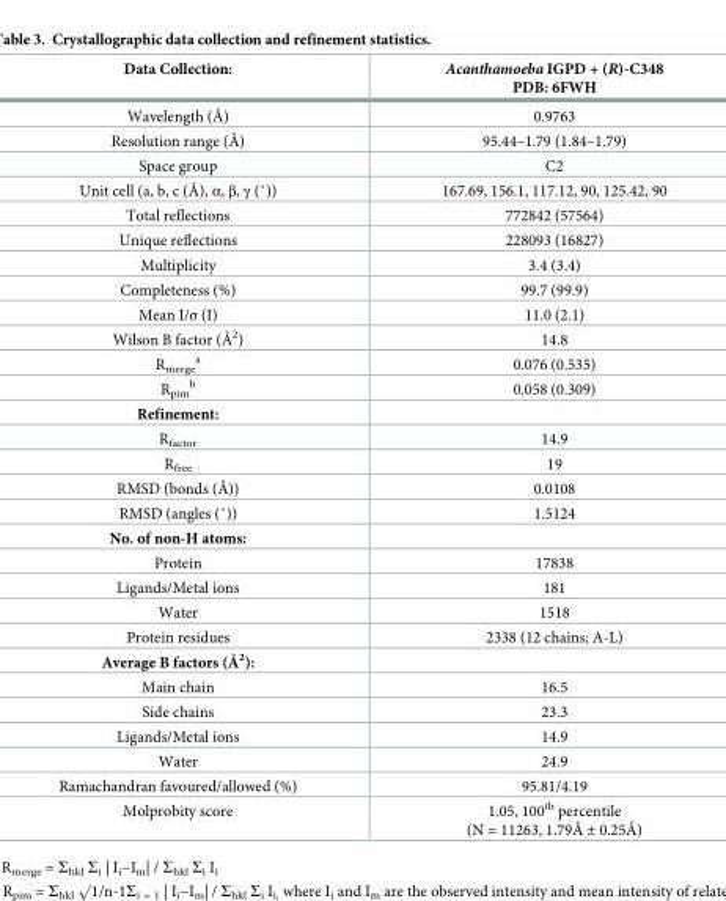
<table><thead><tr><td>Data Collection:</td><td>Acanthamoeba IGPD + (R)-C348 PDB: 6FWH</td></tr></thead><tbody><tr><td>Wavelength (Å)</td><td>0.9763</td></tr><tr><td>Resolution range (Å)</td><td>95.44–1.79 (1.84–1.79)</td></tr><tr><td>Space group</td><td>C2</td></tr><tr><td>Unit cell (a, b, c (Å), α, β, γ (˚))</td><td>167.69, 156.1, 117.12, 90, 125.42, 90</td></tr><tr><td>Total reflections</td><td>772842 (57564)</td></tr><tr><td>Unique reflections</td><td>228093 (16827)</td></tr><tr><td>Multiplicity</td><td>3.4 (3.4)</td></tr><tr><td>Completeness (%)</td><td>99.7 (99.9)</td></tr><tr><td>Mean I/σ (I)</td><td>11.0 (2.1)</td></tr><tr><td>Wilson B factor (Å<sup>2</sup>)</td><td>14.8</td></tr><tr><td>R<sub>merge</sub> <sup>a</sup></td><td>0.076 (0.535)</td></tr><tr><td>R<sub>pim</sub> <sup>b</sup></td><td>0.058 (0.309)</td></tr><tr><td colspan="2">Refinement:</td></tr><tr><td>R<sub>factor</sub></td><td>14.9</td></tr><tr><td>R<sub>free</sub></td><td>19</td></tr><tr><td>RMSD (bonds (Å))</td><td>0.0108</td></tr><tr><td>RMSD (angles (˚))</td><td>1.5124</td></tr><tr><td colspan="2">No. of non-H atoms:</td></tr><tr><td>Protein</td><td>17838</td></tr><tr><td>Ligands/Metal ions</td><td>181</td></tr><tr><td>Water</td><td>1518</td></tr><tr><td>Protein residues</td><td>2338 (12 chains; A-L)</td></tr><tr><td colspan="2">Average B factors (Å<sup>2</sup>):</td></tr><tr><td>Main chain</td><td>16.5</td></tr><tr><td>Side chains</td><td>23.3</td></tr><tr><td>Ligands/Metal ions</td><td>14.9</td></tr><tr><td>Water</td><td>24.9</td></tr><tr><td>Ramachandran favoured/allowed (%)</td><td>95.81/4.19</td></tr><tr><td>Molprobity score</td><td>1.05, 100<sup>th</sup> percentile (N = 11263, 1.79Å ± 0.25Å)</td></tr></tbody></table>